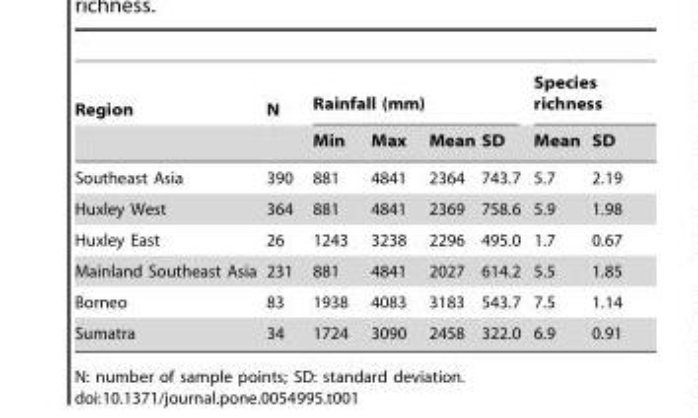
<table><thead><tr><td rowspan="2">Region</td><td rowspan="2">N</td><td colspan="4">Rainfall (mm)</td><td colspan="2">Species richness</td></tr><tr><td>Min</td><td>Max</td><td>Mean</td><td>SD</td><td>Mean</td><td>SD</td></tr></thead><tbody><tr><td>Southeast Asia</td><td>390</td><td>881</td><td>4841</td><td>2364</td><td>743.7</td><td>5.7</td><td>2.19</td></tr><tr><td>Huxley West</td><td>364</td><td>881</td><td>4841</td><td>2369</td><td>758.6</td><td>5.9</td><td>1.98</td></tr><tr><td>Huxley East</td><td>26</td><td>1243</td><td>3238</td><td>2296</td><td>495.0</td><td>1.7</td><td>0.67</td></tr><tr><td>Mainland Southeast Asia</td><td>231</td><td>881</td><td>4841</td><td>2027</td><td>614.2</td><td>5.5</td><td>1.85</td></tr><tr><td>Borneo</td><td>83</td><td>1938</td><td>4083</td><td>3183</td><td>543.7</td><td>7.5</td><td>1.14</td></tr><tr><td>Sumatra</td><td>34</td><td>1724</td><td>3090</td><td>2458</td><td>322.0</td><td>6.9</td><td>0.91</td></tr></tbody></table>